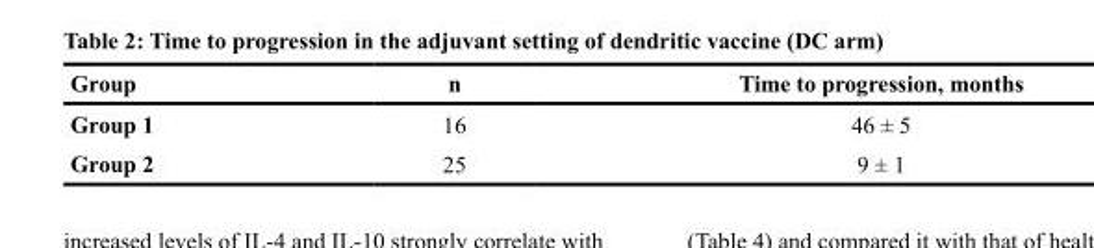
<table><thead><tr><td>Group</td><td>n</td><td>Time to progression, months</td></tr></thead><tbody><tr><td>Group 1</td><td>16</td><td>46 ± 5</td></tr><tr><td>Group 2</td><td>25</td><td>9 ± 1</td></tr></tbody></table>